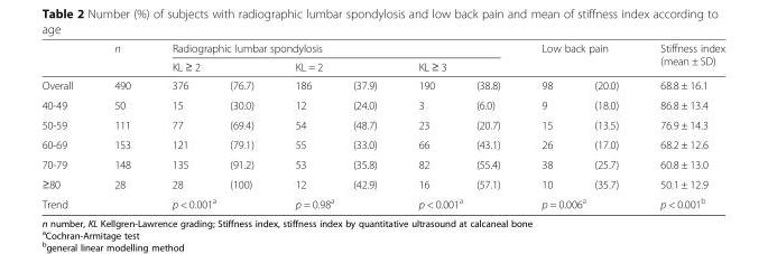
<table><thead><tr><td rowspan="3">Overall</td><td rowspan="3">n 490</td><td colspan="6">Radiographic lumbar spondylosis</td><td rowspan="2" colspan="2">Low back pain</td><td rowspan="3">Stiffness index (mean ± SD) 68.8 ± 16.1</td></tr><tr><td colspan="2">KL ≥ 2</td><td colspan="2">KL = 2</td><td colspan="2">KL ≥ 3</td></tr><tr><td>376</td><td>(76.7)</td><td>186</td><td>(37.9)</td><td>190</td><td>(38.8)</td><td>98</td><td>(20.0)</td></tr></thead><tbody><tr><td>40-49</td><td>50</td><td>15</td><td>(30.0)</td><td>12</td><td>(24.0)</td><td>3</td><td>(6.0)</td><td>9</td><td>(18.0)</td><td>86.8 ± 13.4</td></tr><tr><td>50-59</td><td>111</td><td>77</td><td>(69.4)</td><td>54</td><td>(48.7)</td><td>23</td><td>(20.7)</td><td>15</td><td>(13.5)</td><td>76.9 ± 14.3</td></tr><tr><td>60-69</td><td>153</td><td>121</td><td>(79.1)</td><td>55</td><td>(33.0)</td><td>66</td><td>(43.1)</td><td>26</td><td>(17.0)</td><td>68.2 ± 12.6</td></tr><tr><td>70-79</td><td>148</td><td>135</td><td>(91.2)</td><td>53</td><td>(35.8)</td><td>82</td><td>(55.4)</td><td>38</td><td>(25.7)</td><td>60.8 ± 13.0</td></tr><tr><td>≥80</td><td>28</td><td>28</td><td>(100)</td><td>12</td><td>(42.9)</td><td>16</td><td>(57.1)</td><td>10</td><td>(35.7)</td><td>50.1 ± 12.9</td></tr><tr><td>Trend</td><td></td><td colspan="2">p &lt; 0.001<sup>a</sup></td><td colspan="2">p = 0.98<sup>a</sup></td><td colspan="2">p &lt; 0.001<sup>a</sup></td><td colspan="2">p = 0.006<sup>a</sup></td><td>p &lt; 0.001<sup>b</sup></td></tr></tbody></table>